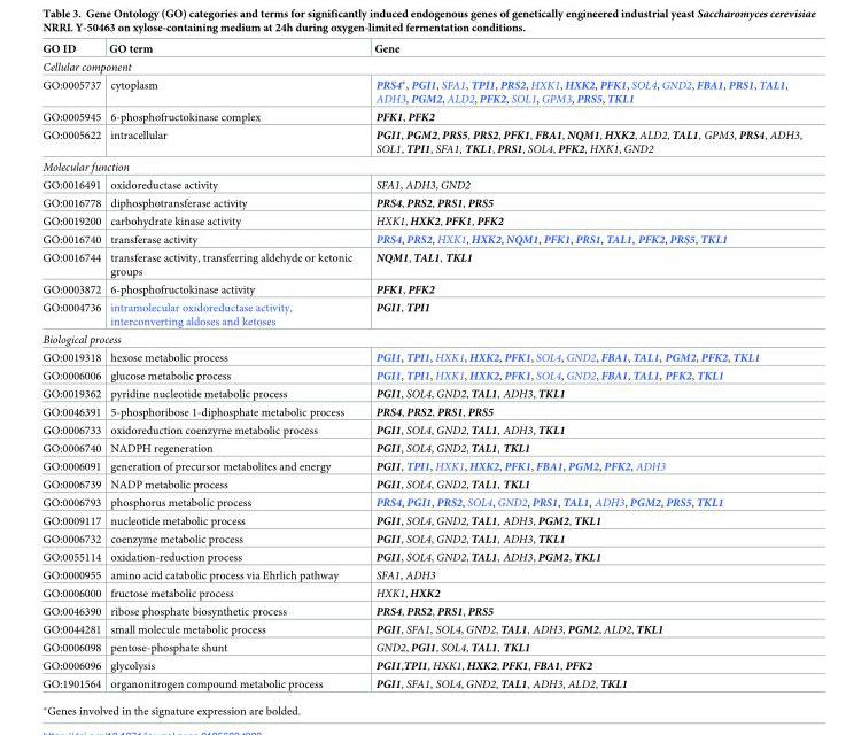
<table><thead><tr><td>GO ID</td><td>GO term</td><td>Gene</td></tr></thead><tbody><tr><td colspan="3">Cellular component</td></tr><tr><td>GO:0005737</td><td>cytoplasm</td><td>PRS4*, PGI1, SFA1, TPI1, PRS2, HXK1, HXK2, PFK1, SOL4, GND2, FBA1, PRS1, TAL1, ADH3, PGM2, ALD2, PFK2, SOL1, GPM3, PRS5, TKL1</td></tr><tr><td>GO:0005945</td><td>6-phosphofructokinase complex</td><td>PFK1, PFK2</td></tr><tr><td>GO:0005622</td><td>intracellular</td><td>PGI1, PGM2, PRS5, PRS2, PFK1, FBA1, NQM1, HXK2, ALD2, TAL1, GPM3, PRS4, ADH3, SOL1, TPI1, SFA1, TKL1, PRS1, SOL4, PFK2, HXK1, GND2</td></tr><tr><td colspan="3">Molecular function</td></tr><tr><td>GO:0016491</td><td>oxidoreductase activity</td><td>SFA1, ADH3, GND2</td></tr><tr><td>GO:0016778</td><td>diphosphotransferase activity</td><td>PRS4, PRS2, PRS1, PRS5</td></tr><tr><td>GO:0019200</td><td>carbohydrate kinase activity</td><td>HXK1, HXK2, PFK1, PFK2</td></tr><tr><td>GO:0016740</td><td>transferase activity</td><td>PRS4, PRS2, HXK1, HXK2, NQM1, PFK1, PRS1, TAL1, PFK2, PRS5, TKL1</td></tr><tr><td>GO:0016744</td><td>transferase activity, transferring aldehyde or ketonic groups</td><td>NQM1, TAL1, TKL1</td></tr><tr><td>GO:0003872</td><td>6-phosphofructokinase activity</td><td>PFK1, PFK2</td></tr><tr><td>GO:0004736</td><td>intramolecular oxidoreductase activity, interconverting aldoses and ketoses</td><td>PGI1, TPI1</td></tr><tr><td colspan="3">Biological process</td></tr><tr><td>GO:0019318</td><td>hexose metabolic process</td><td>PGI1, TPI1, HXK1, HXK2, PFK1, SOL4, GND2, FBA1, TAL1, PGM2, PFK2, TKL1</td></tr><tr><td>GO:0006006</td><td>glucose metabolic process</td><td>PGI1, TPI1, HXK1, HXK2, PFK1, SOL4, GND2, FBA1, TAL1, PFK2, TKL1</td></tr><tr><td>GO:0019362</td><td>pyridine nucleotide metabolic process</td><td>PGI1, SOL4, GND2, TAL1, ADH3, TKL1</td></tr><tr><td>GO:0046391</td><td>5-phosphoribose 1-diphosphate metabolic process</td><td>PRS4, PRS2, PRS1, PRS5</td></tr><tr><td>GO:0006733</td><td>oxidoreduction coenzyme metabolic process</td><td>PGI1, SOL4, GND2, TAL1, ADH3, TKL1</td></tr><tr><td>GO:0006740</td><td>NADPH regeneration</td><td>PGI1, SOL4, GND2, TAL1, TKL1</td></tr><tr><td>GO:0006091</td><td>generation of precursor metabolites and energy</td><td>PGI1, TPI1, HXK1, HXK2, PFK1, FBA1, PGM2, PFK2, ADH3</td></tr><tr><td>GO:0006739</td><td>NADP metabolic process</td><td>PGI1, SOL4, GND2, TAL1, TKL1</td></tr><tr><td>GO:0006793</td><td>phosphorus metabolic process</td><td>PRS4, PGI1, PRS2, SOL4, GND2, PRS1, TAL1, ADH3, PGM2, PRS5, TKL1</td></tr><tr><td>GO:0009117</td><td>nucleotide metabolic process</td><td>PGI1, SOL4, GND2, TAL1, ADH3, PGM2, TKL1</td></tr><tr><td>GO:0006732</td><td>coenzyme metabolic process</td><td>PGI1, SOL4, GND2, TAL1, ADH3, TKL1</td></tr><tr><td>GO:0055114</td><td>oxidation-reduction process</td><td>PGI1, SOL4, GND2, TAL1, ADH3, PGM2, TKL1</td></tr><tr><td>GO:0000955</td><td>amino acid catabolic process via Ehrlich pathway</td><td>SFA1, ADH3</td></tr><tr><td>GO:0006000</td><td>fructose metabolic process</td><td>HXK1, HXK2</td></tr><tr><td>GO:0046390</td><td>ribose phosphate biosynthetic process</td><td>PRS4, PRS2, PRS1, PRS5</td></tr><tr><td>GO:0044281</td><td>small molecule metabolic process</td><td>PGI1, SFA1, SOL4, GND2, TAL1, ADH3, PGM2, ALD2, TKL1</td></tr><tr><td>GO:0006098</td><td>pentose-phosphate shunt</td><td>GND2, PGI1, SOL4, TAL1, TKL1</td></tr><tr><td>GO:0006096</td><td>glycolysis</td><td>PGI1,TPI1, HXK1, HXK2, PFK1, FBA1, PFK2</td></tr><tr><td>GO:1901564</td><td>organonitrogen compound metabolic process</td><td>PGI1, SFA1, SOL4, GND2, TAL1, ADH3, ALD2, TKL1</td></tr></tbody></table>